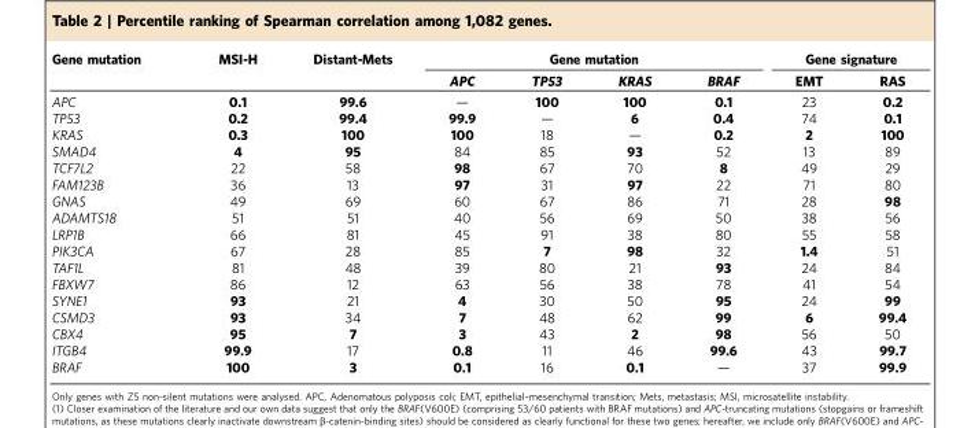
<table><thead><tr><td rowspan="2">Gene mutation</td><td rowspan="2">MSI-H</td><td rowspan="2">Distant-Mets</td><td colspan="4">Gene mutation</td><td colspan="2">Gene signature</td></tr><tr><td>APC</td><td>TP53</td><td>KRAS</td><td>BRAF</td><td>EMT</td><td>RAS</td></tr></thead><tbody><tr><td>APC</td><td>0.1</td><td>99.6</td><td>—</td><td>100</td><td>100</td><td>0.1</td><td>23</td><td>0.2</td></tr><tr><td>TP53</td><td>0.2</td><td>99.4</td><td>99.9</td><td>—</td><td>6</td><td>0.4</td><td>74</td><td>0.1</td></tr><tr><td>KRAS</td><td>0.3</td><td>100</td><td>100</td><td>18</td><td>—</td><td>0.2</td><td>2</td><td>100</td></tr><tr><td>SMAD4</td><td>4</td><td>95</td><td>84</td><td>85</td><td>93</td><td>52</td><td>13</td><td>89</td></tr><tr><td>TCF7L2</td><td>22</td><td>58</td><td>98</td><td>67</td><td>70</td><td>8</td><td>49</td><td>29</td></tr><tr><td>FAM123B</td><td>36</td><td>13</td><td>97</td><td>31</td><td>97</td><td>22</td><td>71</td><td>80</td></tr><tr><td>GNAS</td><td>49</td><td>69</td><td>60</td><td>67</td><td>86</td><td>71</td><td>28</td><td>98</td></tr><tr><td>ADAMTS18</td><td>51</td><td>51</td><td>40</td><td>56</td><td>69</td><td>50</td><td>38</td><td>56</td></tr><tr><td>LRP1B</td><td>66</td><td>81</td><td>45</td><td>91</td><td>38</td><td>80</td><td>55</td><td>58</td></tr><tr><td>PIK3CA</td><td>67</td><td>28</td><td>85</td><td>7</td><td>98</td><td>32</td><td>1.4</td><td>51</td></tr><tr><td>TAF1L</td><td>81</td><td>48</td><td>39</td><td>80</td><td>21</td><td>93</td><td>24</td><td>84</td></tr><tr><td>FBXW7</td><td>86</td><td>12</td><td>63</td><td>56</td><td>38</td><td>78</td><td>41</td><td>54</td></tr><tr><td>SYNE1</td><td>93</td><td>21</td><td>4</td><td>30</td><td>50</td><td>95</td><td>24</td><td>99</td></tr><tr><td>CSMD3</td><td>93</td><td>34</td><td>7</td><td>48</td><td>62</td><td>99</td><td>6</td><td>99.4</td></tr><tr><td>CBX4</td><td>95</td><td>7</td><td>3</td><td>43</td><td>2</td><td>98</td><td>56</td><td>50</td></tr><tr><td>ITGB4</td><td>99.9</td><td>17</td><td>0.8</td><td>11</td><td>46</td><td>99.6</td><td>43</td><td>99.7</td></tr><tr><td>BRAF</td><td>100</td><td>3</td><td>0.1</td><td>16</td><td>0.1</td><td>—</td><td>37</td><td>99.9</td></tr></tbody></table>